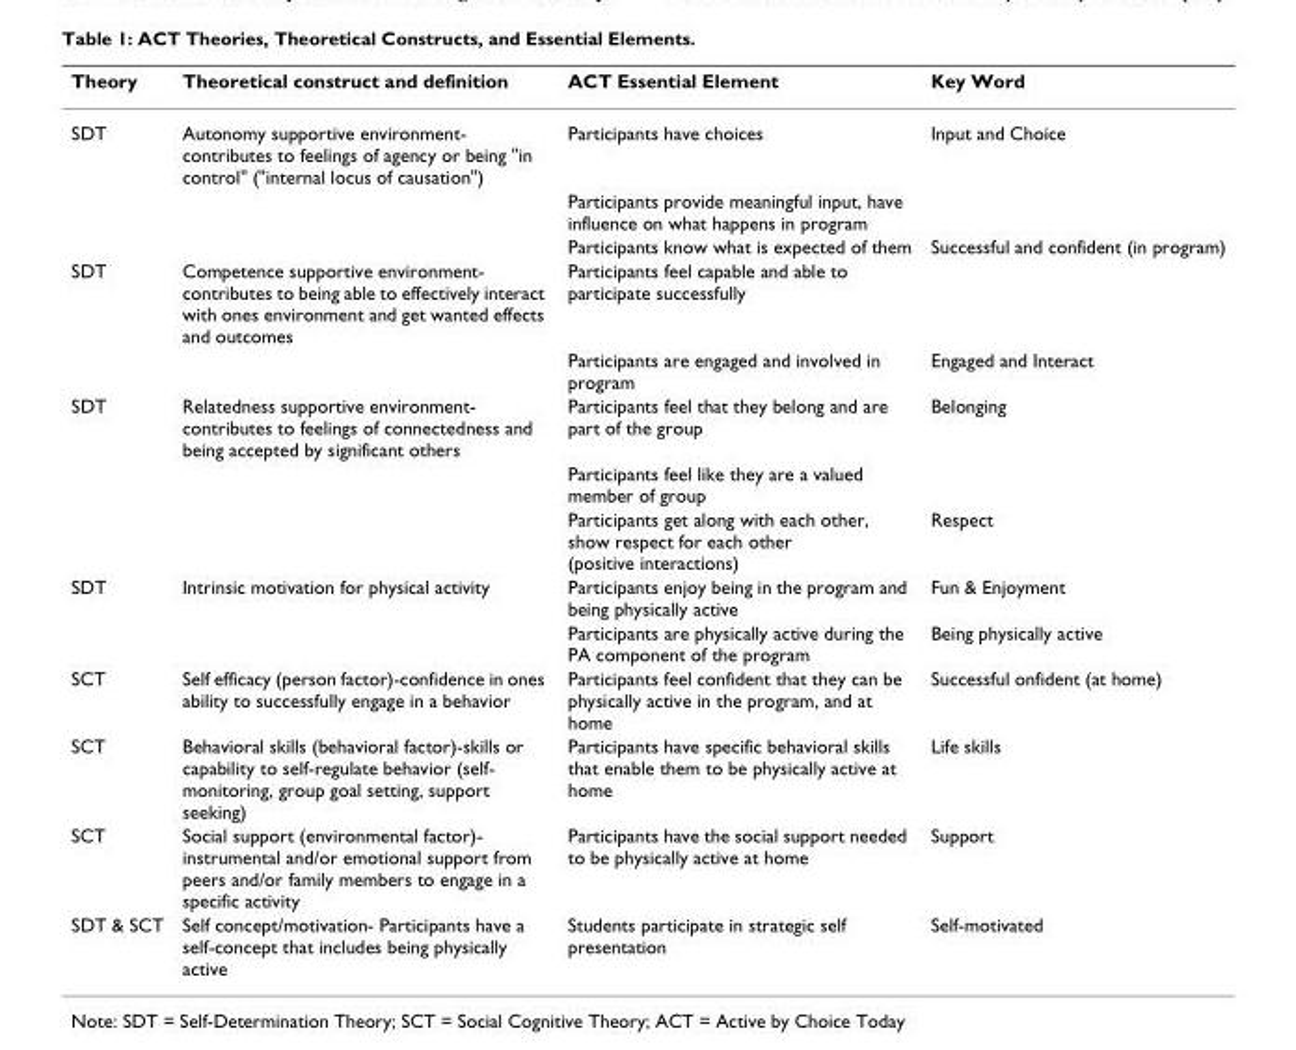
<table><thead><tr><td>Theory</td><td>Theoretical construct and definition</td><td>ACT Essential Element</td><td>Key Word</td></tr></thead><tbody><tr><td rowspan="3">SDT</td><td>Autonomy supportive environment- contributes to feelings of agency or being &quot;in control&quot; (&quot;internal locus of causation&quot;)</td><td>Participants have choices</td><td>Input and Choice</td></tr><tr><td></td><td>Participants provide meaningful input, have influence on what happens in program</td><td></td></tr><tr><td></td><td>Participants know what is expected of them</td><td>Successful and confident (in program)</td></tr><tr><td rowspan="2">SDT</td><td>Competence supportive environment- contributes to being able to effectively interact with ones environment and get wanted effects and outcomes</td><td>Participants feel capable and able to participate successfully</td><td></td></tr><tr><td></td><td>Participants are engaged and involved in program</td><td>Engaged and Interact</td></tr><tr><td rowspan="3">SDT</td><td>Relatedness supportive environment- contributes to feelings of connectedness and being accepted by significant others</td><td>Participants feel that they belong and are part of the group</td><td>Belonging</td></tr><tr><td></td><td>Participants feel like they are a valued member of group</td><td></td></tr><tr><td></td><td>Participants get along with each other, show respect for each other (positive interactions)</td><td>Respect</td></tr><tr><td rowspan="2">SDT</td><td>Intrinsic motivation for physical activity</td><td>Participants enjoy being in the program and being physically active</td><td>Fun &amp; Enjoyment</td></tr><tr><td></td><td>Participants are physically active during the PA component of the program</td><td>Being physically active</td></tr><tr><td>SCT</td><td>Self efficacy (person factor)-confidence in ones ability to successfully engage in a behavior</td><td>Participants feel confident that they can be physically active in the program, and at home</td><td>Successful onfident (at home)</td></tr><tr><td>SCT</td><td>Behavioral skills (behavioral factor)-skills or capability to self-regulate behavior (self- monitoring, group goal setting, support seeking)</td><td>Participants have specific behavioral skills that enable them to be physically active at home</td><td>Life skills</td></tr><tr><td>SCT</td><td>Social support (environmental factor)- instrumental and/or emotional support from peers and/or family members to engage in a specific activity</td><td>Participants have the social support needed to be physically active at home</td><td>Support</td></tr><tr><td>SDT &amp; SCT</td><td>Self concept/motivation- Participants have a self-concept that includes being physically active</td><td>Students participate in strategic self presentation</td><td>Self-motivated</td></tr></tbody></table>